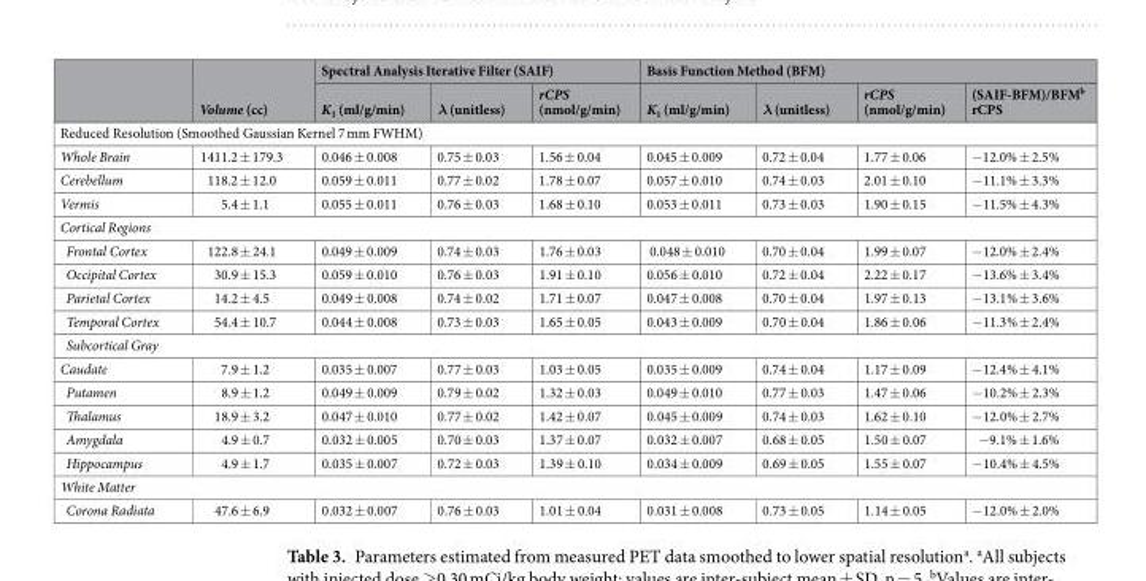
<table><thead><tr><td rowspan="2"></td><td rowspan="2">Volume (cc)</td><td colspan="3">Spectral Analysis Iterative Filter (SAIF)</td><td colspan="4">Basis Function Method (BFM)</td></tr><tr><td>K<sub>1</sub> (ml/g/min)</td><td>λ (unitless)</td><td>rCPS (nmol/g/min)</td><td>K<sub>1</sub> (ml/g/min)</td><td>λ (unitless)</td><td>rCPS (nmol/g/min)</td><td>(SAIF-BFM)/BFM<sup>b</sup> rCPS</td></tr></thead><tbody><tr><td colspan="9">Reduced Resolution (Smoothed Gaussian Kernel 7 mm FWHM)</td></tr><tr><td>Whole Brain</td><td>1411.2 ± 179.3</td><td>0.046 ± 0.008</td><td>0.75 ± 0.03</td><td>1.56 ± 0.04</td><td>0.045 ± 0.009</td><td>0.72 ± 0.04</td><td>1.77 ± 0.06</td><td>−12.0% ± 2.5%</td></tr><tr><td>Cerebellum</td><td>118.2 ± 12.0</td><td>0.059 ± 0.011</td><td>0.77 ± 0.02</td><td>1.78 ± 0.07</td><td>0.057 ± 0.010</td><td>0.74 ± 0.03</td><td>2.01 ± 0.10</td><td>−11.1% ± 3.3%</td></tr><tr><td>Vermis</td><td>5.4 ± 1.1</td><td>0.055 ± 0.011</td><td>0.76 ± 0.03</td><td>1.68 ± 0.10</td><td>0.053 ± 0.011</td><td>0.73 ± 0.03</td><td>1.90 ± 0.15</td><td>−11.5% ± 4.3%</td></tr><tr><td colspan="9">Cortical Regions</td></tr><tr><td>Frontal Cortex</td><td>122.8 ± 24.1</td><td>0.049 ± 0.009</td><td>0.74 ± 0.03</td><td>1.76 ± 0.03</td><td>0.048 ± 0.010</td><td>0.70 ± 0.04</td><td>1.99 ± 0.07</td><td>−12.0% ± 2.4%</td></tr><tr><td>Occipital Cortex</td><td>30.9 ± 15.3</td><td>0.059 ± 0.010</td><td>0.76 ± 0.03</td><td>1.91 ± 0.10</td><td>0.056 ± 0.010</td><td>0.72 ± 0.04</td><td>2.22 ± 0.17</td><td>−13.6% ± 3.4%</td></tr><tr><td>Parietal Cortex</td><td>14.2 ± 4.5</td><td>0.049 ± 0.008</td><td>0.74 ± 0.02</td><td>1.71 ± 0.07</td><td>0.047 ± 0.008</td><td>0.70 ± 0.04</td><td>1.97 ± 0.13</td><td>−13.1% ± 3.6%</td></tr><tr><td>Temporal Cortex</td><td>54.4 ± 10.7</td><td>0.044 ± 0.008</td><td>0.73 ± 0.03</td><td>1.65 ± 0.05</td><td>0.043 ± 0.009</td><td>0.70 ± 0.04</td><td>1.86 ± 0.06</td><td>−11.3% ± 2.4%</td></tr><tr><td colspan="9">Subcortical Gray</td></tr><tr><td>Caudate</td><td>7.9 ± 1.2</td><td>0.035 ± 0.007</td><td>0.77 ± 0.03</td><td>1.03 ± 0.05</td><td>0.035 ± 0.009</td><td>0.74 ± 0.04</td><td>1.17 ± 0.09</td><td>−12.4% ± 4.1%</td></tr><tr><td>Putamen</td><td>8.9 ± 1.2</td><td>0.049 ± 0.009</td><td>0.79 ± 0.02</td><td>1.32 ± 0.03</td><td>0.049 ± 0.010</td><td>0.77 ± 0.03</td><td>1.47 ± 0.06</td><td>−10.2% ± 2.3%</td></tr><tr><td>Thalamus</td><td>18.9 ± 3.2</td><td>0.047 ± 0.010</td><td>0.77 ± 0.02</td><td>1.42 ± 0.07</td><td>0.045 ± 0.009</td><td>0.74 ± 0.03</td><td>1.62 ± 0.10</td><td>−12.0% ± 2.7%</td></tr><tr><td>Amygdala</td><td>4.9 ± 0.7</td><td>0.032 ± 0.005</td><td>0.70 ± 0.03</td><td>1.37 ± 0.07</td><td>0.032 ± 0.007</td><td>0.68 ± 0.05</td><td>1.50 ± 0.07</td><td>−9.1% ± 1.6%</td></tr><tr><td>Hippocampus</td><td>4.9 ± 1.7</td><td>0.035 ± 0.007</td><td>0.72 ± 0.03</td><td>1.39 ± 0.10</td><td>0.034 ± 0.009</td><td>0.69 ± 0.05</td><td>1.55 ± 0.07</td><td>−10.4% ± 4.5%</td></tr><tr><td colspan="9">White Matter</td></tr><tr><td>Corona Radiata</td><td>47.6 ± 6.9</td><td>0.032 ± 0.007</td><td>0.76 ± 0.03</td><td>1.01 ± 0.04</td><td>0.031 ± 0.008</td><td>0.73 ± 0.05</td><td>1.14 ± 0.05</td><td>−12.0% ± 2.0%</td></tr></tbody></table>